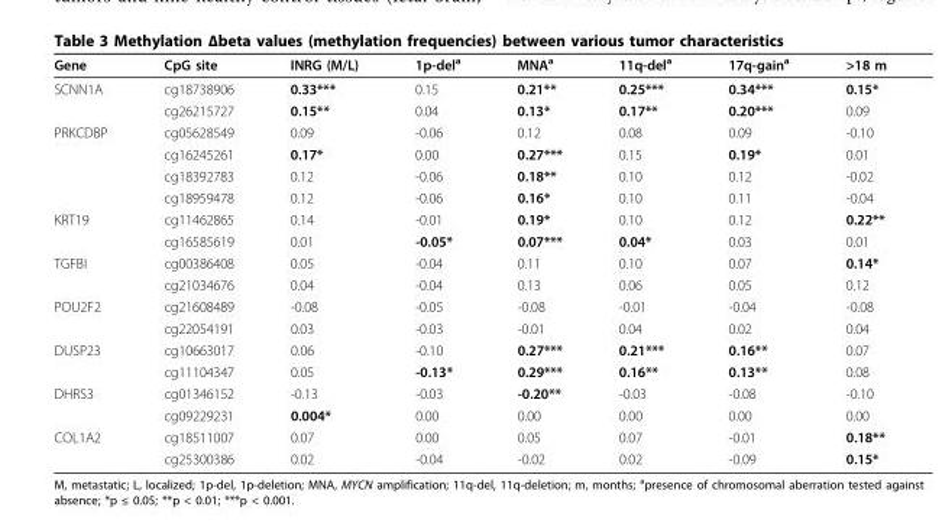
<table><thead><tr><td>Gene</td><td>CpG site</td><td>INRG (M/L)</td><td>1p-del<sup>a</sup></td><td>MNA<sup>a</sup></td><td>11q-del<sup>a</sup></td><td>17q-gain<sup>a</sup></td><td>&gt;18 m</td></tr></thead><tbody><tr><td rowspan="2">SCNN1A</td><td>cg18738906</td><td>0.33***</td><td>0.15</td><td>0.21**</td><td>0.25***</td><td>0.34***</td><td>0.15*</td></tr><tr><td>cg26215727</td><td>0.15**</td><td>0.04</td><td>0.13*</td><td>0.17**</td><td>0.20***</td><td>0.09</td></tr><tr><td rowspan="4">PRKCDBP</td><td>cg05628549</td><td>0.09</td><td>-0.06</td><td>0.12</td><td>0.08</td><td>0.09</td><td>-0.10</td></tr><tr><td>cg16245261</td><td>0.17*</td><td>0.00</td><td>0.27***</td><td>0.15</td><td>0.19*</td><td>0.01</td></tr><tr><td>cg18392783</td><td>0.12</td><td>-0.06</td><td>0.18**</td><td>0.10</td><td>0.12</td><td>-0.02</td></tr><tr><td>cg18959478</td><td>0.12</td><td>-0.06</td><td>0.16*</td><td>0.10</td><td>0.11</td><td>-0.04</td></tr><tr><td rowspan="2">KRT19</td><td>cg11462865</td><td>0.14</td><td>-0.01</td><td>0.19*</td><td>0.10</td><td>0.12</td><td>0.22**</td></tr><tr><td>cg16585619</td><td>0.01</td><td>-0.05*</td><td>0.07***</td><td>0.04*</td><td>0.03</td><td>0.01</td></tr><tr><td rowspan="2">TGFBI</td><td>cg00386408</td><td>0.05</td><td>-0.04</td><td>0.11</td><td>0.10</td><td>0.07</td><td>0.14*</td></tr><tr><td>cg21034676</td><td>0.04</td><td>-0.04</td><td>0.13</td><td>0.06</td><td>0.05</td><td>0.12</td></tr><tr><td rowspan="2">POU2F2</td><td>cg21608489</td><td>-0.08</td><td>-0.05</td><td>-0.08</td><td>-0.01</td><td>-0.04</td><td>-0.08</td></tr><tr><td>cg22054191</td><td>0.03</td><td>-0.03</td><td>-0.01</td><td>0.04</td><td>0.02</td><td>0.04</td></tr><tr><td rowspan="2">DUSP23</td><td>cg10663017</td><td>0.06</td><td>-0.10</td><td>0.27***</td><td>0.21***</td><td>0.16**</td><td>0.07</td></tr><tr><td>cg11104347</td><td>0.05</td><td>-0.13*</td><td>0.29***</td><td>0.16**</td><td>0.13**</td><td>0.08</td></tr><tr><td rowspan="2">DHRS3</td><td>cg01346152</td><td>-0.13</td><td>-0.03</td><td>-0.20**</td><td>-0.03</td><td>-0.08</td><td>-0.10</td></tr><tr><td>cg09229231</td><td>0.004*</td><td>0.00</td><td>0.00</td><td>0.00</td><td>0.00</td><td>0.00</td></tr><tr><td rowspan="2">COL1A2</td><td>cg18511007</td><td>0.07</td><td>0.00</td><td>0.05</td><td>0.07</td><td>-0.01</td><td>0.18**</td></tr><tr><td>cg25300386</td><td>0.02</td><td>-0.04</td><td>-0.02</td><td>0.02</td><td>-0.09</td><td>0.15*</td></tr></tbody></table>